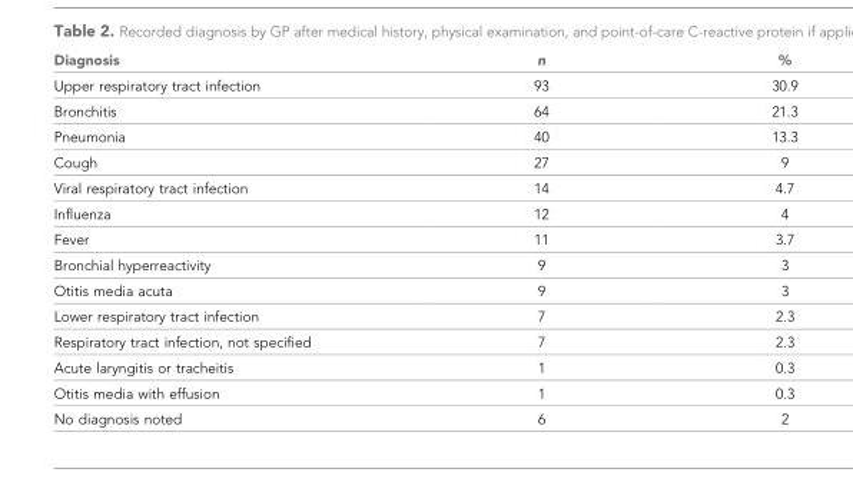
<table><thead><tr><td>Diagnosis</td><td>n</td><td>%</td></tr></thead><tbody><tr><td>Upper respiratory tract infection</td><td>93</td><td>30.9</td></tr><tr><td>Bronchitis</td><td>64</td><td>21.3</td></tr><tr><td>Pneumonia</td><td>40</td><td>13.3</td></tr><tr><td>Cough</td><td>27</td><td>9</td></tr><tr><td>Viral respiratory tract infection</td><td>14</td><td>4.7</td></tr><tr><td>Influenza</td><td>12</td><td>4</td></tr><tr><td>Fever</td><td>11</td><td>3.7</td></tr><tr><td>Bronchial hyperreactivity</td><td>9</td><td>3</td></tr><tr><td>Otitis media acuta</td><td>9</td><td>3</td></tr><tr><td>Lower respiratory tract infection</td><td>7</td><td>2.3</td></tr><tr><td>Respiratory tract infection, not specified</td><td>7</td><td>2.3</td></tr><tr><td>Acute laryngitis or tracheitis</td><td>1</td><td>0.3</td></tr><tr><td>Otitis media with effusion</td><td>1</td><td>0.3</td></tr><tr><td>No diagnosis noted</td><td>6</td><td>2</td></tr></tbody></table>